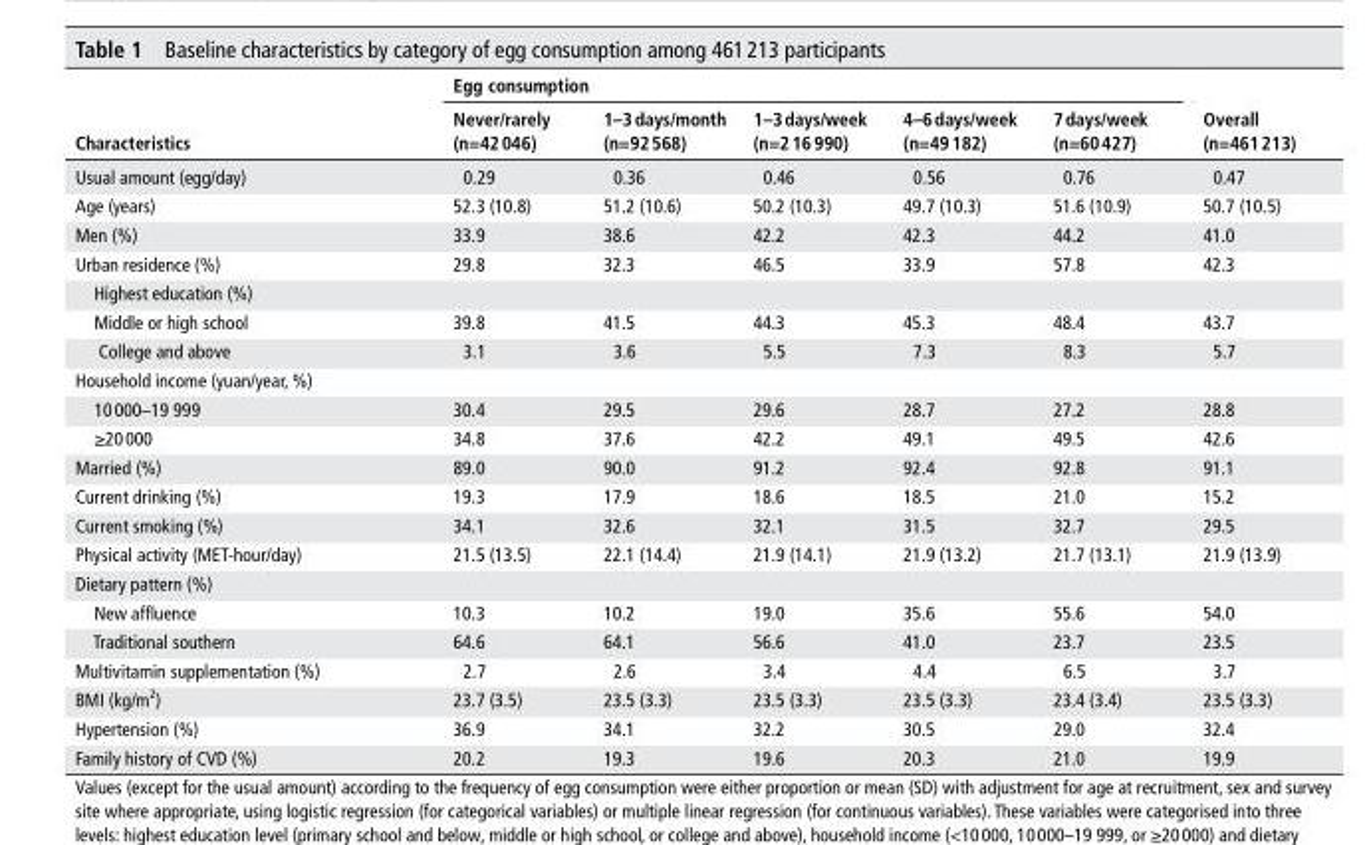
<table><thead><tr><td rowspan="2">Characteristics</td><td colspan="5">egg consumption</td><td rowspan="2">Overall (n=461 213)</td></tr><tr><td>never/rarely (n=42 046)</td><td>1–3 days/month (n=92 568)</td><td>1–3 days/week (n=2 16 990)</td><td>4–6 days/week (n=49 182)</td><td>7 days/week (n=60 427)</td></tr></thead><tbody><tr><td>Usual amount (egg/day)</td><td>0.29</td><td>0.36</td><td>0.46</td><td>0.56</td><td>0.76</td><td>0.47</td></tr><tr><td>Age (years)</td><td>52.3 (10.8)</td><td>51.2 (10.6)</td><td>50.2 (10.3)</td><td>49.7 (10.3)</td><td>51.6 (10.9)</td><td>50.7 (10.5)</td></tr><tr><td>Men (%)</td><td>33.9</td><td>38.6</td><td>42.2</td><td>42.3</td><td>44.2</td><td>41.0</td></tr><tr><td>Urban residence (%)</td><td>29.8</td><td>32.3</td><td>46.5</td><td>33.9</td><td>57.8</td><td>42.3</td></tr><tr><td colspan="7">Highest education (%)</td></tr><tr><td>Middle or high school</td><td>39.8</td><td>41.5</td><td>44.3</td><td>45.3</td><td>48.4</td><td>43.7</td></tr><tr><td>College and above</td><td>3.1</td><td>3.6</td><td>5.5</td><td>7.3</td><td>8.3</td><td>5.7</td></tr><tr><td colspan="7">Household income (yuan/year, %)</td></tr><tr><td>10 000–19 999</td><td>30.4</td><td>29.5</td><td>29.6</td><td>28.7</td><td>27.2</td><td>28.8</td></tr><tr><td>≥20 000</td><td>34.8</td><td>37.6</td><td>42.2</td><td>49.1</td><td>49.5</td><td>42.6</td></tr><tr><td>Married (%)</td><td>89.0</td><td>90.0</td><td>91.2</td><td>92.4</td><td>92.8</td><td>91.1</td></tr><tr><td>Current drinking (%)</td><td>19.3</td><td>17.9</td><td>18.6</td><td>18.5</td><td>21.0</td><td>15.2</td></tr><tr><td>Current smoking (%)</td><td>34.1</td><td>32.6</td><td>32.1</td><td>31.5</td><td>32.7</td><td>29.5</td></tr><tr><td>Physical activity (MET-hour/day)</td><td>21.5 (13.5)</td><td>22.1 (14.4)</td><td>21.9 (14.1)</td><td>21.9 (13.2)</td><td>21.7 (13.1)</td><td>21.9 (13.9)</td></tr><tr><td colspan="7">Dietary pattern (%)</td></tr><tr><td>New affluence</td><td>10.3</td><td>10.2</td><td>19.0</td><td>35.6</td><td>55.6</td><td>54.0</td></tr><tr><td>Traditional southern</td><td>64.6</td><td>64.1</td><td>56.6</td><td>41.0</td><td>23.7</td><td>23.5</td></tr><tr><td>Multivitamin supplementation (%)</td><td>2.7</td><td>2.6</td><td>3.4</td><td>4.4</td><td>6.5</td><td>3.7</td></tr><tr><td>BMI (kg/m<sup>2</sup>)</td><td>23.7 (3.5)</td><td>23.5 (3.3)</td><td>23.5 (3.3)</td><td>23.5 (3.3)</td><td>23.4 (3.4)</td><td>23.5 (3.3)</td></tr><tr><td>Hypertension (%)</td><td>36.9</td><td>34.1</td><td>32.2</td><td>30.5</td><td>29.0</td><td>32.4</td></tr><tr><td>Family history of CVD (%)</td><td>20.2</td><td>19.3</td><td>19.6</td><td>20.3</td><td>21.0</td><td>19.9</td></tr></tbody></table>